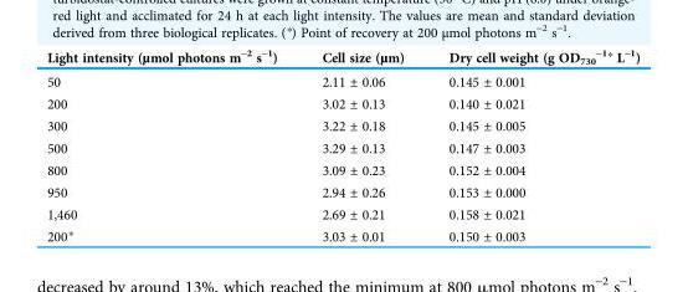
<table><thead><tr><td>Light intensity (µmol photons m<sup>-2</sup> s<sup>-1</sup>)</td><td>Cell size (µm)</td><td>Dry cell weight (g OD<sub>730</sub> <sup>-1</sup>* L<sup>-1</sup>)</td></tr></thead><tbody><tr><td>50</td><td>2.11 ± 0.06</td><td>0.145 ± 0.001</td></tr><tr><td>200</td><td>3.02 ± 0.13</td><td>0.140 ± 0.021</td></tr><tr><td>300</td><td>3.22 ± 0.18</td><td>0.145 ± 0.005</td></tr><tr><td>500</td><td>3.29 ± 0.13</td><td>0.147 ± 0.003</td></tr><tr><td>800</td><td>3.09 ± 0.23</td><td>0.152 ± 0.004</td></tr><tr><td>950</td><td>2.94 ± 0.26</td><td>0.153 ± 0.000</td></tr><tr><td>1,460</td><td>2.69 ± 0.21</td><td>0.158 ± 0.021</td></tr><tr><td>200*</td><td>3.03 ± 0.01</td><td>0.150 ± 0.003</td></tr></tbody></table>